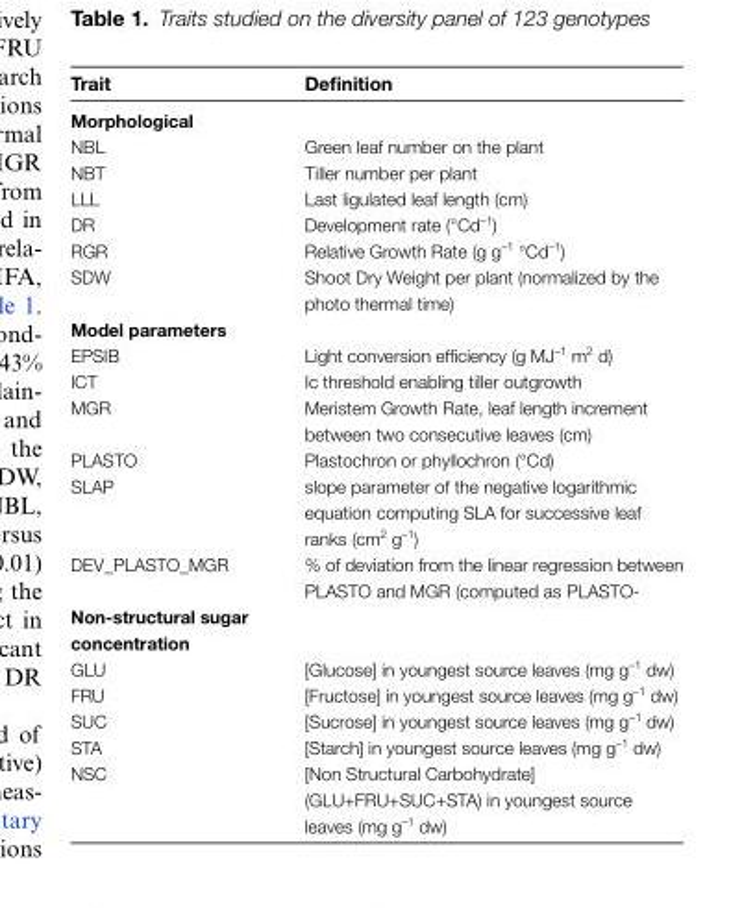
<table><thead><tr><td>Trait</td><td>Definition</td></tr></thead><tbody><tr><td colspan="2">Morphological</td></tr><tr><td>NBL</td><td>Green leaf number on the plant</td></tr><tr><td>NBT</td><td>Tiller number per plant</td></tr><tr><td>LLL</td><td>Last ligulated leaf length (cm)</td></tr><tr><td>DR</td><td>Development rate (°Cd<sup>–1</sup>)</td></tr><tr><td>RGR</td><td>Relative Growth Rate (g g<sup>–1</sup> °Cd<sup>–1</sup>)</td></tr><tr><td>SDW</td><td>Shoot Dry Weight per plant (normalized by the photo thermal time)</td></tr><tr><td colspan="2">Model parameters</td></tr><tr><td>EPSIB</td><td>Light conversion efficiency (g MJ<sup>–1</sup> m<sup>2</sup> d)</td></tr><tr><td>ICT</td><td>Ic threshold enabling tiller outgrowth</td></tr><tr><td>MGR</td><td>Meristem Growth Rate, leaf length increment between two consecutive leaves (cm)</td></tr><tr><td>PLASTO</td><td>Plastochron or phyllochron (°Cd)</td></tr><tr><td>SLAP</td><td>slope parameter of the negative logarithmic equation computing SLA for successive leaf ranks (cm<sup>2</sup> g<sup>–1</sup>)</td></tr><tr><td>DEV_PLASTO_MGR</td><td>% of deviation from the linear regression between PLASTO and MGR (computed as PLASTO-</td></tr><tr><td colspan="2">Non-structural sugar concentration</td></tr><tr><td>GLU</td><td>[Glucose] in youngest source leaves (mg g<sup>–1</sup> dw)</td></tr><tr><td>FRU</td><td>[Fructose] in youngest source leaves (mg g<sup>–1</sup> dw)</td></tr><tr><td>SUC</td><td>[Sucrose] in youngest source leaves (mg g<sup>–1</sup> dw)</td></tr><tr><td>STA</td><td>[Starch] in youngest source leaves (mg g<sup>–1</sup> dw)</td></tr><tr><td>NSC</td><td>[Non Structural Carbohydrate] (GLU+FRU+SUC+STA) in youngest source leaves (mg g<sup>–1</sup> dw)</td></tr></tbody></table>